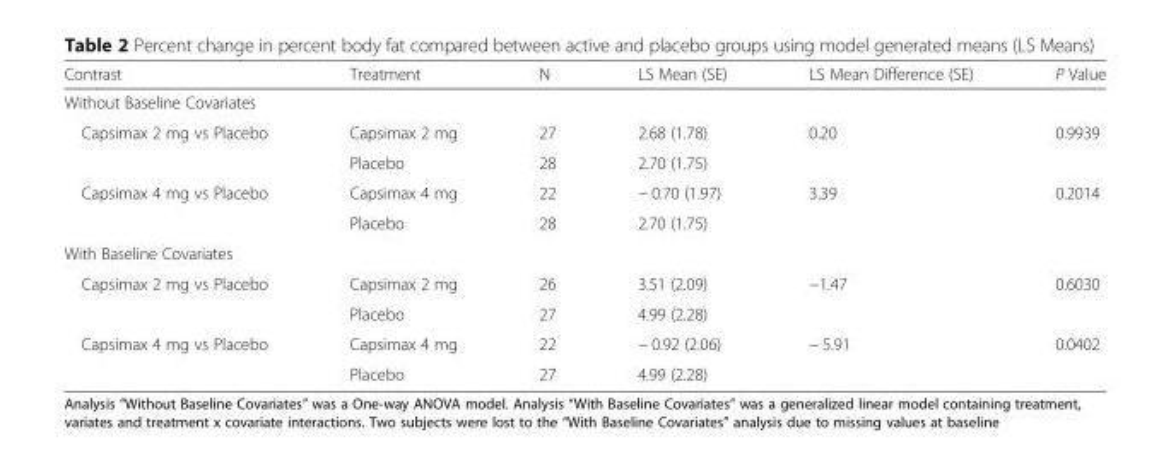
<table><thead><tr><td>Contrast</td><td>Treatment</td><td>N</td><td>LS Mean (SE)</td><td>LS Mean Difference (SE)</td><td>P Value</td></tr></thead><tbody><tr><td colspan="6">Without Baseline Covariates</td></tr><tr><td rowspan="2">Capsimax 2 mg vs Placebo</td><td>Capsimax 2 mg</td><td>27</td><td>2.68 (1.78)</td><td rowspan="2">0.20</td><td rowspan="2">0.9939</td></tr><tr><td>Placebo</td><td>28</td><td>2.70 (1.75)</td></tr><tr><td rowspan="2">Capsimax 4 mg vs Placebo</td><td>Capsimax 4 mg</td><td>22</td><td>− 0.70 (1.97)</td><td rowspan="2">3.39</td><td rowspan="2">0.2014</td></tr><tr><td>Placebo</td><td>28</td><td>2.70 (1.75)</td></tr><tr><td colspan="6">With Baseline Covariates</td></tr><tr><td rowspan="2">Capsimax 2 mg vs Placebo</td><td>Capsimax 2 mg</td><td>26</td><td>3.51 (2.09)</td><td rowspan="2">−1.47</td><td rowspan="2">0.6030</td></tr><tr><td>Placebo</td><td>27</td><td>4.99 (2.28)</td></tr><tr><td rowspan="2">Capsimax 4 mg vs Placebo</td><td>Capsimax 4 mg</td><td>22</td><td>− 0.92 (2.06)</td><td rowspan="2">− 5.91</td><td rowspan="2">0.0402</td></tr><tr><td>Placebo</td><td>27</td><td>4.99 (2.28)</td></tr></tbody></table>